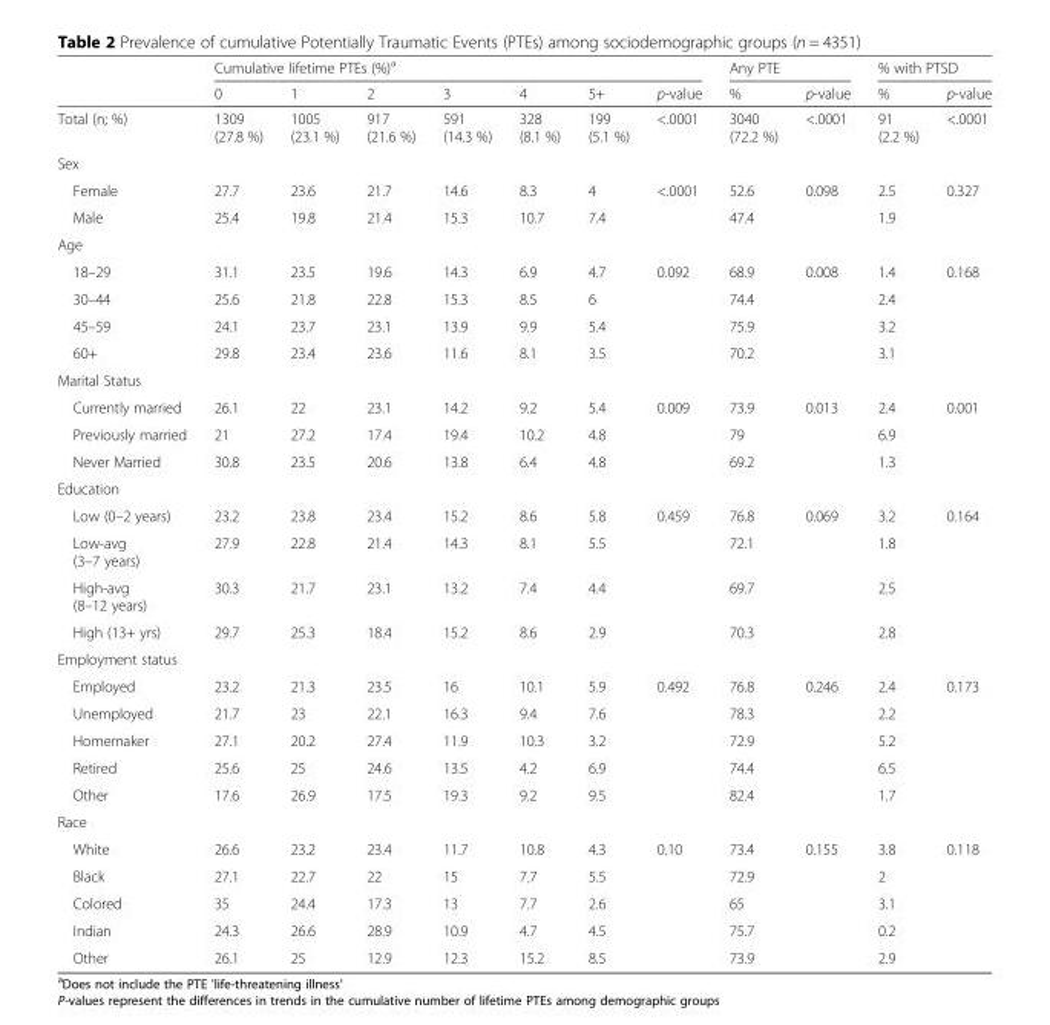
<table><thead><tr><td rowspan="2"></td><td colspan="7">Cumulative lifetime PTEs (%)<sup>a</sup></td><td colspan="2">Any PTE</td><td colspan="2">% with PTSD</td></tr><tr><td>0</td><td>1</td><td>2</td><td>3</td><td>4</td><td>5+</td><td>p-value</td><td>%</td><td>p-value</td><td>%</td><td>p-value</td></tr></thead><tbody><tr><td>Total (n; %)</td><td>1309 (27.8 %)</td><td>1005 (23.1 %)</td><td>917 (21.6 %)</td><td>591 (14.3 %)</td><td>328 (8.1 %)</td><td>199 (5.1 %)</td><td>&lt;.0001</td><td>3040 (72.2 %)</td><td>&lt;.0001</td><td>91 (2.2 %)</td><td>&lt;.0001</td></tr><tr><td colspan="12">Sex</td></tr><tr><td>Female</td><td>27.7</td><td>23.6</td><td>21.7</td><td>14.6</td><td>8.3</td><td>4</td><td>&lt;.0001</td><td>52.6</td><td>0.098</td><td>2.5</td><td>0.327</td></tr><tr><td>Male</td><td>25.4</td><td>19.8</td><td>21.4</td><td>15.3</td><td>10.7</td><td>7.4</td><td></td><td>47.4</td><td></td><td>1.9</td><td></td></tr><tr><td colspan="12">Age</td></tr><tr><td>18–29</td><td>31.1</td><td>23.5</td><td>19.6</td><td>14.3</td><td>6.9</td><td>4.7</td><td>0.092</td><td>68.9</td><td>0.008</td><td>1.4</td><td>0.168</td></tr><tr><td>30–44</td><td>25.6</td><td>21.8</td><td>22.8</td><td>15.3</td><td>8.5</td><td>6</td><td></td><td>74.4</td><td></td><td>2.4</td><td></td></tr><tr><td>45–59</td><td>24.1</td><td>23.7</td><td>23.1</td><td>13.9</td><td>9.9</td><td>5.4</td><td></td><td>75.9</td><td></td><td>3.2</td><td></td></tr><tr><td>60+</td><td>29.8</td><td>23.4</td><td>23.6</td><td>11.6</td><td>8.1</td><td>3.5</td><td></td><td>70.2</td><td></td><td>3.1</td><td></td></tr><tr><td colspan="12">Marital Status</td></tr><tr><td>Currently married</td><td>26.1</td><td>22</td><td>23.1</td><td>14.2</td><td>9.2</td><td>5.4</td><td>0.009</td><td>73.9</td><td>0.013</td><td>2.4</td><td>0.001</td></tr><tr><td>Previously married</td><td>21</td><td>27.2</td><td>17.4</td><td>19.4</td><td>10.2</td><td>4.8</td><td></td><td>79</td><td></td><td>6.9</td><td></td></tr><tr><td>Never Married</td><td>30.8</td><td>23.5</td><td>20.6</td><td>13.8</td><td>6.4</td><td>4.8</td><td></td><td>69.2</td><td></td><td>1.3</td><td></td></tr><tr><td colspan="12">Education</td></tr><tr><td>Low (0–2 years)</td><td>23.2</td><td>23.8</td><td>23.4</td><td>15.2</td><td>8.6</td><td>5.8</td><td>0.459</td><td>76.8</td><td>0.069</td><td>3.2</td><td>0.164</td></tr><tr><td>Low-avg (3–7 years)</td><td>27.9</td><td>22.8</td><td>21.4</td><td>14.3</td><td>8.1</td><td>5.5</td><td></td><td>72.1</td><td></td><td>1.8</td><td></td></tr><tr><td>High-avg (8–12 years)</td><td>30.3</td><td>21.7</td><td>23.1</td><td>13.2</td><td>7.4</td><td>4.4</td><td></td><td>69.7</td><td></td><td>2.5</td><td></td></tr><tr><td>High (13+ yrs)</td><td>29.7</td><td>25.3</td><td>18.4</td><td>15.2</td><td>8.6</td><td>2.9</td><td></td><td>70.3</td><td></td><td>2.8</td><td></td></tr><tr><td colspan="12">Employment status</td></tr><tr><td>Employed</td><td>23.2</td><td>21.3</td><td>23.5</td><td>16</td><td>10.1</td><td>5.9</td><td>0.492</td><td>76.8</td><td>0.246</td><td>2.4</td><td>0.173</td></tr><tr><td>Unemployed</td><td>21.7</td><td>23</td><td>22.1</td><td>16.3</td><td>9.4</td><td>7.6</td><td></td><td>78.3</td><td></td><td>2.2</td><td></td></tr><tr><td>Homemaker</td><td>27.1</td><td>20.2</td><td>27.4</td><td>11.9</td><td>10.3</td><td>3.2</td><td></td><td>72.9</td><td></td><td>5.2</td><td></td></tr><tr><td>Retired</td><td>25.6</td><td>25</td><td>24.6</td><td>13.5</td><td>4.2</td><td>6.9</td><td></td><td>74.4</td><td></td><td>6.5</td><td></td></tr><tr><td>Other</td><td>17.6</td><td>26.9</td><td>17.5</td><td>19.3</td><td>9.2</td><td>9.5</td><td></td><td>82.4</td><td></td><td>1.7</td><td></td></tr><tr><td colspan="12">Race</td></tr><tr><td>White</td><td>26.6</td><td>23.2</td><td>23.4</td><td>11.7</td><td>10.8</td><td>4.3</td><td>0.10</td><td>73.4</td><td>0.155</td><td>3.8</td><td>0.118</td></tr><tr><td>Black</td><td>27.1</td><td>22.7</td><td>22</td><td>15</td><td>7.7</td><td>5.5</td><td></td><td>72.9</td><td></td><td>2</td><td></td></tr><tr><td>Colored</td><td>35</td><td>24.4</td><td>17.3</td><td>13</td><td>7.7</td><td>2.6</td><td></td><td>65</td><td></td><td>3.1</td><td></td></tr><tr><td>Indian</td><td>24.3</td><td>26.6</td><td>28.9</td><td>10.9</td><td>4.7</td><td>4.5</td><td></td><td>75.7</td><td></td><td>0.2</td><td></td></tr><tr><td>Other</td><td>26.1</td><td>25</td><td>12.9</td><td>12.3</td><td>15.2</td><td>8.5</td><td></td><td>73.9</td><td></td><td>2.9</td><td></td></tr></tbody></table>